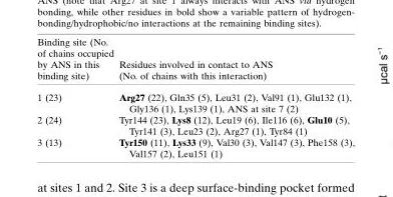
<table><thead><tr><td>Binding site (No. of chains occupied by ANS in this binding site)</td><td>Residues involved in contact to ANS (No. of chains with this interaction)</td></tr></thead><tbody><tr><td>1 (23)</td><td>Arg27 (22), Gln35 (5), Leu31 (2), Val91 (1), Glu132 (1), Gly136 (1), Lys139 (1), ANS at site 7 (2)</td></tr><tr><td>2 (24)</td><td>Tyr144 (23), Lys8 (12), Leu19 (6), Ile116 (6), Glu10 (5), Tyr141 (3), Leu23 (2), Arg27 (1), Tyr84 (1)</td></tr><tr><td>3 (13)</td><td>Tyr150 (11), Lys33 (9), Val30 (3), Val147 (3), Phe158 (3), Val157 (2), Leu151 (1)</td></tr></tbody></table>